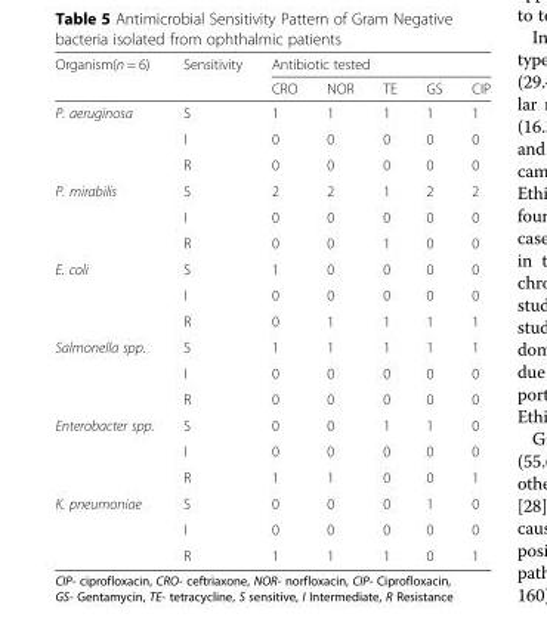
<table><thead><tr><td rowspan="2">Organism(n = 6)</td><td rowspan="2">Sensitivity</td><td colspan="5">Antibiotic tested</td></tr><tr><td>CRO</td><td>NOR</td><td>TE</td><td>GS</td><td>CIP</td></tr></thead><tbody><tr><td rowspan="3">P. aeruginosa</td><td>S</td><td>1</td><td>1</td><td>1</td><td>1</td><td>1</td></tr><tr><td>I</td><td>0</td><td>0</td><td>0</td><td>0</td><td>0</td></tr><tr><td>R</td><td>0</td><td>0</td><td>0</td><td>0</td><td>0</td></tr><tr><td rowspan="3">P. mirabilis</td><td>S</td><td>2</td><td>2</td><td>1</td><td>2</td><td>2</td></tr><tr><td>I</td><td>0</td><td>0</td><td>0</td><td>0</td><td>0</td></tr><tr><td>R</td><td>0</td><td>0</td><td>1</td><td>0</td><td>0</td></tr><tr><td rowspan="3">E. coli</td><td>S</td><td>1</td><td>0</td><td>0</td><td>0</td><td>0</td></tr><tr><td>I</td><td>0</td><td>0</td><td>0</td><td>0</td><td>0</td></tr><tr><td>R</td><td>0</td><td>1</td><td>1</td><td>1</td><td>1</td></tr><tr><td rowspan="3">Salmonella spp.</td><td>S</td><td>1</td><td>1</td><td>1</td><td>1</td><td>1</td></tr><tr><td>I</td><td>0</td><td>0</td><td>0</td><td>0</td><td>0</td></tr><tr><td>R</td><td>0</td><td>0</td><td>0</td><td>0</td><td>0</td></tr><tr><td rowspan="3">Enterobacter spp.</td><td>S</td><td>0</td><td>0</td><td>1</td><td>1</td><td>0</td></tr><tr><td>I</td><td>0</td><td>0</td><td>0</td><td>0</td><td>0</td></tr><tr><td>R</td><td>1</td><td>1</td><td>0</td><td>0</td><td>1</td></tr><tr><td rowspan="3">K. pneumoniae</td><td>S</td><td>0</td><td>0</td><td>0</td><td>1</td><td>0</td></tr><tr><td>I</td><td>0</td><td>0</td><td>0</td><td>0</td><td>0</td></tr><tr><td>R</td><td>1</td><td>1</td><td>1</td><td>0</td><td>1</td></tr></tbody></table>